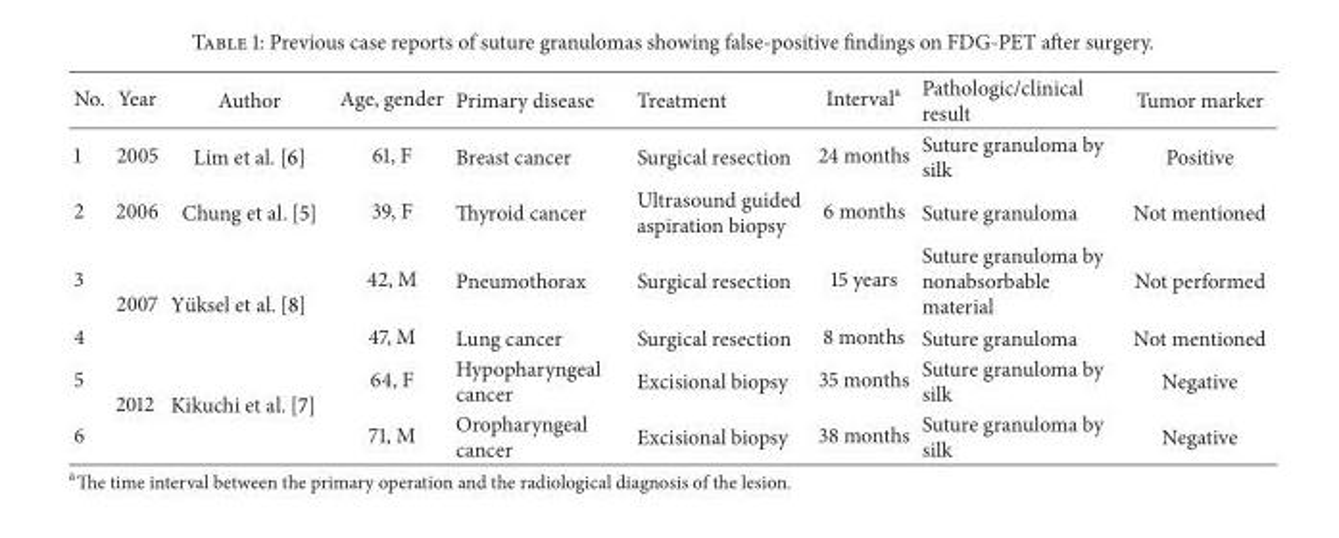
<table><thead><tr><td>No.</td><td>Year</td><td>Author</td><td>Age, gender</td><td>Primary disease</td><td>Treatment</td><td>Interval<sup>a</sup></td><td>Pathologic/clinical result</td><td>Tumor marker</td></tr></thead><tbody><tr><td>1</td><td>2005</td><td>Lim et al. [6]</td><td>61, F</td><td>Breast cancer</td><td>Surgical resection</td><td>24 months</td><td>Suture granuloma by silk</td><td>Positive</td></tr><tr><td>2</td><td>2006</td><td>Chung et al. [5]</td><td>39, F</td><td>Thyroid cancer</td><td>Ultrasound guided aspiration biopsy</td><td>6 months</td><td>Suture granuloma</td><td>Not mentioned</td></tr><tr><td>3</td><td rowspan="2">2007</td><td rowspan="2">Y¨uksel et al. [8]</td><td>42, M</td><td>Pneumothorax</td><td>Surgical resection</td><td>15 years</td><td>Suture granuloma by nonabsorbable material</td><td>Not performed</td></tr><tr><td>4</td><td>47, M</td><td>Lung cancer</td><td>Surgical resection</td><td>8 months</td><td>Suture granuloma</td><td>Not mentioned</td></tr><tr><td>5</td><td rowspan="2">2012</td><td rowspan="2">Kikuchi et al. [7]</td><td>64, F</td><td>Hypopharyngeal cancer</td><td>Excisional biopsy</td><td>35 months</td><td>Suture granuloma by silk</td><td>Negative</td></tr><tr><td>6</td><td>71, M</td><td>Oropharyngeal cancer</td><td>Excisional biopsy</td><td>38 months</td><td>Suture granuloma by silk</td><td>Negative</td></tr></tbody></table>